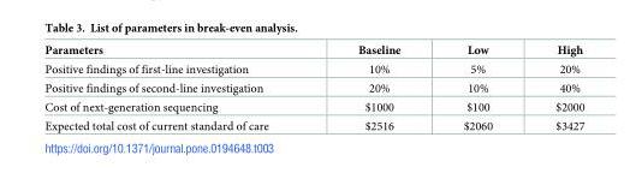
<table><thead><tr><td>Parameters</td><td>Baseline</td><td>Low</td><td>High</td></tr></thead><tbody><tr><td>Positive findings of first-line investigation</td><td>10%</td><td>5%</td><td>20%</td></tr><tr><td>Positive findings of second-line investigation</td><td>20%</td><td>10%</td><td>40%</td></tr><tr><td>Cost of next-generation sequencing</td><td>$1000</td><td>$100</td><td>$2000</td></tr><tr><td>Expected total cost of current standard of care</td><td>$2516</td><td>$2060</td><td>$3427</td></tr></tbody></table>